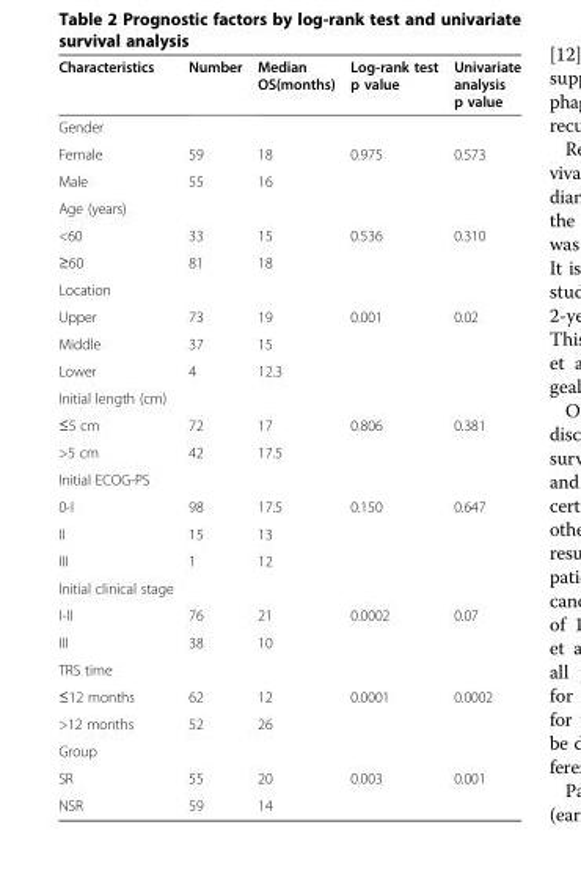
<table><thead><tr><td>Characteristics</td><td>Number</td><td>Median OS(months)</td><td>Log-rank test p value</td><td>Univariate analysis p value</td></tr></thead><tbody><tr><td colspan="5">Gender</td></tr><tr><td>Female</td><td>59</td><td>18</td><td rowspan="2">0.975</td><td rowspan="2">0.573</td></tr><tr><td>Male</td><td>55</td><td>16</td></tr><tr><td colspan="5">Age (years)</td></tr><tr><td>&lt;60</td><td>33</td><td>15</td><td rowspan="2">0.536</td><td rowspan="2">0.310</td></tr><tr><td>≥60</td><td>81</td><td>18</td></tr><tr><td colspan="5">Location</td></tr><tr><td>Upper</td><td>73</td><td>19</td><td rowspan="3">0.001</td><td rowspan="3">0.02</td></tr><tr><td>Middle</td><td>37</td><td>15</td></tr><tr><td>Lower</td><td>4</td><td>12.3</td></tr><tr><td colspan="5">Initial length (cm)</td></tr><tr><td>≤5 cm</td><td>72</td><td>17</td><td rowspan="2">0.806</td><td rowspan="2">0.381</td></tr><tr><td>&gt;5 cm</td><td>42</td><td>17.5</td></tr><tr><td colspan="5">Initial ECOG-PS</td></tr><tr><td>0-I</td><td>98</td><td>17.5</td><td rowspan="3">0.150</td><td rowspan="3">0.647</td></tr><tr><td>II</td><td>15</td><td>13</td></tr><tr><td>III</td><td>1</td><td>12</td></tr><tr><td colspan="5">Initial clinical stage</td></tr><tr><td>I-II</td><td>76</td><td>21</td><td rowspan="2">0.0002</td><td rowspan="2">0.07</td></tr><tr><td>III</td><td>38</td><td>10</td></tr><tr><td colspan="5">TRS time</td></tr><tr><td>≤12 months</td><td>62</td><td>12</td><td rowspan="2">0.0001</td><td rowspan="2">0.0002</td></tr><tr><td>&gt;12 months</td><td>52</td><td>26</td></tr><tr><td colspan="5">Group</td></tr><tr><td>SR</td><td>55</td><td>20</td><td rowspan="2">0.003</td><td rowspan="2">0.001</td></tr><tr><td>NSR</td><td>59</td><td>14</td></tr></tbody></table>